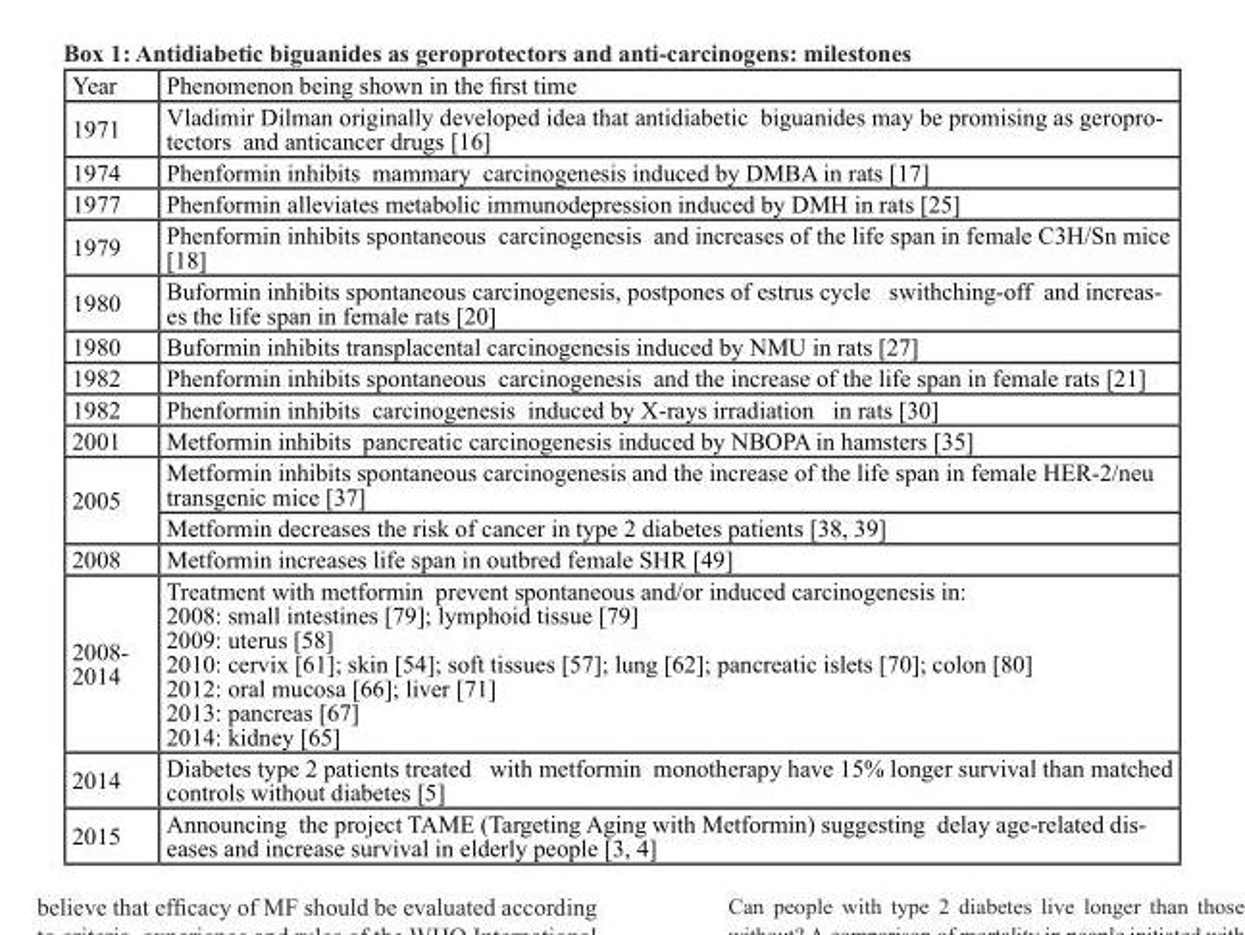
<table><thead><tr><td>Year</td><td>Phenomenon being shown in the first time</td></tr></thead><tbody><tr><td>1971</td><td>Vladimir Dilman originally developed idea that antidiabetic biguanides may be promising as geropro- tectors and anticancer drugs [16]</td></tr><tr><td>1974</td><td>Phenformin inhibits mammary carcinogenesis induced by DMBA in rats [17]</td></tr><tr><td>1977</td><td>Phenformin alleviates metabolic immunodepression induced by DMH in rats [25]</td></tr><tr><td>1979</td><td>Phenformin inhibits spontaneous carcinogenesis and increases of the life span in female C3H/Sn mice [18]</td></tr><tr><td>1980</td><td>Buformin inhibits spontaneous carcinogenesis, postpones of estrus cycle swithching-off and increas- es the life span in female rats [20]</td></tr><tr><td>1980</td><td>Buformin inhibits transplacental carcinogenesis induced by NMU in rats [27]</td></tr><tr><td>1982</td><td>Phenformin inhibits spontaneous carcinogenesis and the increase of the life span in female rats [21]</td></tr><tr><td>1982</td><td>Phenformin inhibits carcinogenesis induced by X-rays irradiation in rats [30]</td></tr><tr><td>2001</td><td>Metformin inhibits pancreatic carcinogenesis induced by NBOPA in hamsters [35]</td></tr><tr><td rowspan="2">2005</td><td>Metformin inhibits spontaneous carcinogenesis and the increase of the life span in female HER-2/neu transgenic mice [37]</td></tr><tr><td>Metformin decreases the risk of cancer in type 2 diabetes patients [38, 39]</td></tr><tr><td>2008</td><td>Metformin increases life span in outbred female SHR [49]</td></tr><tr><td>2008- 2014</td><td>Treatment with metformin prevent spontaneous and/or induced carcinogenesis in: 2008: small intestines [79]; lymphoid tissue [79] 2009: uterus [58] 2010: cervix [61]; skin [54]; soft tissues [57]; lung [62]; pancreatic islets [70]; colon [80] 2012: oral mucosa [66]; liver [71] 2013: pancreas [67] 2014: kidney [65]</td></tr><tr><td>2014</td><td>Diabetes type 2 patients treated with metformin monotherapy have 15% longer survival than matched controls without diabetes [5]</td></tr><tr><td>2015</td><td>Announcing the project TAME (Targeting Aging with Metformin) suggesting delay age-related dis- eases and increase survival in elderly people [3, 4]</td></tr></tbody></table>